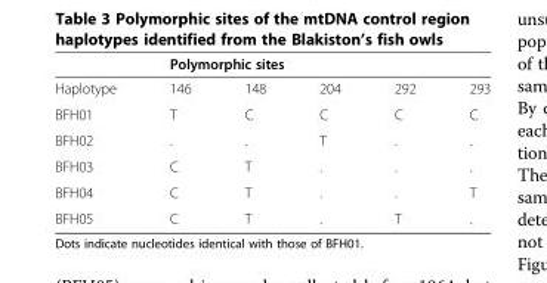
<table><thead><tr><td rowspan="2">Haplotype</td><td colspan="5">Polymorphic sites</td></tr><tr><td>146</td><td>148</td><td>204</td><td>292</td><td>293</td></tr></thead><tbody><tr><td>BFH01</td><td>T</td><td>C</td><td>C</td><td>C</td><td>C</td></tr><tr><td>BFH02</td><td>.</td><td>.</td><td>T</td><td>.</td><td>.</td></tr><tr><td>BFH03</td><td>C</td><td>T</td><td>.</td><td>.</td><td>.</td></tr><tr><td>BFH04</td><td>C</td><td>T</td><td>.</td><td>.</td><td>T</td></tr><tr><td>BFH05</td><td>C</td><td>T</td><td>.</td><td>T</td><td>.</td></tr></tbody></table>